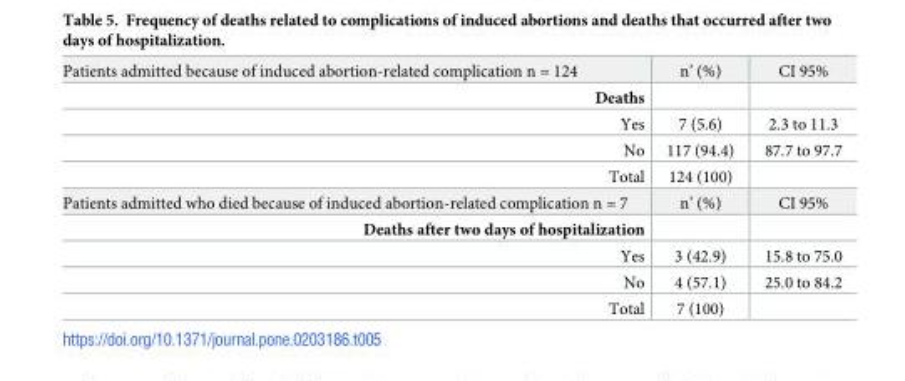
<table><tbody><tr><td>Patients admitted because of induced abortion-related complication n = 124</td><td>n’ (%)</td><td>CI 95%</td></tr><tr><td colspan="3">Deaths</td></tr><tr><td>Yes</td><td>7 (5.6)</td><td>2.3 to 11.3</td></tr><tr><td>No</td><td>117 (94.4)</td><td>87.7 to 97.7</td></tr><tr><td>Total</td><td>124 (100)</td><td></td></tr><tr><td>Patients admitted who died because of induced abortion-related complication n = 7</td><td>n’ (%)</td><td>CI 95%</td></tr><tr><td colspan="3">Deaths after two days of hospitalization</td></tr><tr><td>Yes</td><td>3 (42.9)</td><td>15.8 to 75.0</td></tr><tr><td>No</td><td>4 (57.1)</td><td>25.0 to 84.2</td></tr><tr><td>Total</td><td>7 (100)</td><td></td></tr></tbody></table>